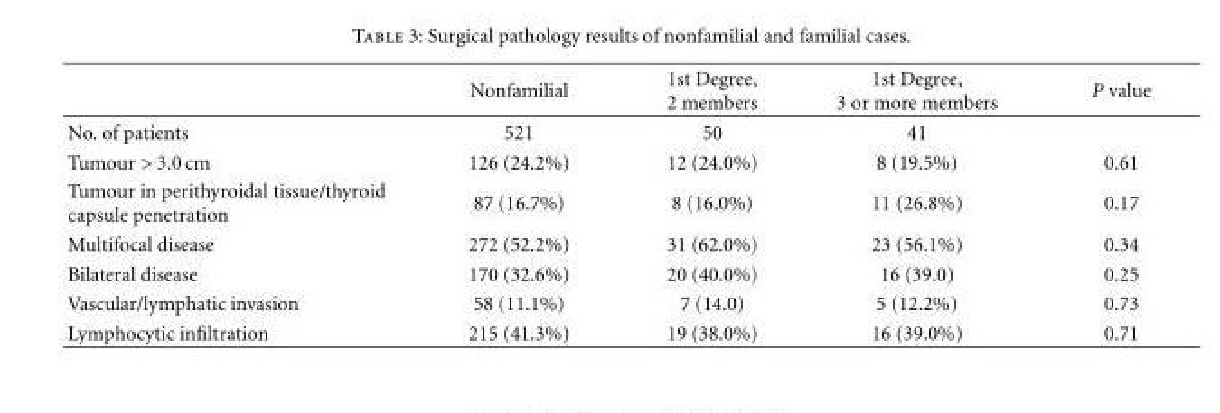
<table><thead><tr><td></td><td>Nonfamilial</td><td>1st Degree, 2 members</td><td>1st Degree, 3 or more members</td><td>P value</td></tr></thead><tbody><tr><td>No. of patients</td><td>521</td><td>50</td><td>41</td><td></td></tr><tr><td>Tumour &gt; 3.0 cm</td><td>126 (24.2%)</td><td>12 (24.0%)</td><td>8 (19.5%)</td><td>0.61</td></tr><tr><td>Tumour in perithyroidal tissue/thyroid capsule penetration</td><td>87 (16.7%)</td><td>8 (16.0%)</td><td>11 (26.8%)</td><td>0.17</td></tr><tr><td>Multifocal disease</td><td>272 (52.2%)</td><td>31 (62.0%)</td><td>23 (56.1%)</td><td>0.34</td></tr><tr><td>Bilateral disease</td><td>170 (32.6%)</td><td>20 (40.0%)</td><td>16 (39.0)</td><td>0.25</td></tr><tr><td>Vascular/lymphatic invasion</td><td>58 (11.1%)</td><td>7 (14.0)</td><td>5 (12.2%)</td><td>0.73</td></tr><tr><td>Lymphocytic infiltration</td><td>215 (41.3%)</td><td>19 (38.0%)</td><td>16 (39.0%)</td><td>0.71</td></tr></tbody></table>